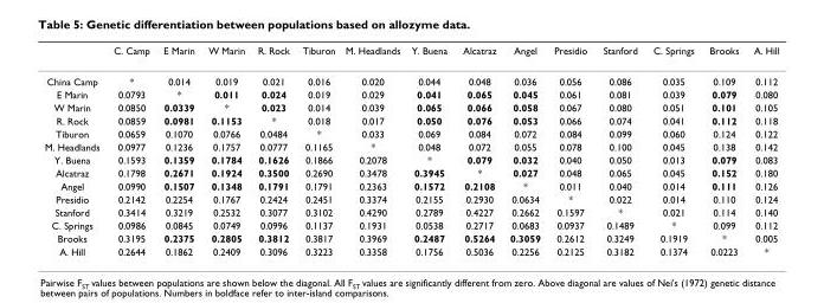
<table><thead><tr><td></td><td>C. Camp</td><td>E Marin</td><td>W Marin</td><td>R. Rock</td><td>Tiburon</td><td>M. Headlands</td><td>Y. Buena</td><td>Alcatraz</td><td>Angel</td><td>Presidio</td><td>Stanford</td><td>C. Springs</td><td>Brooks</td><td>A. Hill</td></tr></thead><tbody><tr><td>China Camp</td><td>*</td><td>0.014</td><td>0.019</td><td>0.021</td><td>0.016</td><td>0.020</td><td>0.044</td><td>0.048</td><td>0.036</td><td>0.056</td><td>0.086</td><td>0.035</td><td>0.109</td><td>0.112</td></tr><tr><td>E Marin</td><td>0.0793</td><td>*</td><td>0.011</td><td>0.024</td><td>0.019</td><td>0.029</td><td>0.041</td><td>0.065</td><td>0.045</td><td>0.061</td><td>0.081</td><td>0.039</td><td>0.079</td><td>0.080</td></tr><tr><td>W Marin</td><td>0.0850</td><td>0.0339</td><td>*</td><td>0.023</td><td>0.014</td><td>0.039</td><td>0.065</td><td>0.066</td><td>0.058</td><td>0.067</td><td>0.080</td><td>0.051</td><td>0.101</td><td>0.105</td></tr><tr><td>R. Rock</td><td>0.0859</td><td>0.0981</td><td>0.1153</td><td>*</td><td>0.018</td><td>0.017</td><td>0.050</td><td>0.076</td><td>0.053</td><td>0.066</td><td>0.074</td><td>0.041</td><td>0.112</td><td>0.118</td></tr><tr><td>Tiburon</td><td>0.0659</td><td>0.1070</td><td>0.0766</td><td>0.0484</td><td>*</td><td>0.033</td><td>0.069</td><td>0.084</td><td>0.072</td><td>0.084</td><td>0.099</td><td>0.060</td><td>0.124</td><td>0.122</td></tr><tr><td>M. Headlands</td><td>0.0977</td><td>0.1236</td><td>0.1757</td><td>0.0777</td><td>0.1165</td><td>*</td><td>0.048</td><td>0.072</td><td>0.055</td><td>0.078</td><td>0.100</td><td>0.045</td><td>0.138</td><td>0.142</td></tr><tr><td>Y. Buena</td><td>0.1593</td><td>0.1359</td><td>0.1784</td><td>0.1626</td><td>0.1866</td><td>0.2078</td><td>*</td><td>0.079</td><td>0.032</td><td>0.040</td><td>0.050</td><td>0.013</td><td>0.079</td><td>0.083</td></tr><tr><td>Alcatraz</td><td>0.1798</td><td>0.2671</td><td>0.1924</td><td>0.3500</td><td>0.2690</td><td>0.3478</td><td>0.3945</td><td>*</td><td>0.027</td><td>0.048</td><td>0.065</td><td>0.045</td><td>0.152</td><td>0.180</td></tr><tr><td>Angel</td><td>0.0990</td><td>0.1507</td><td>0.1348</td><td>0.1791</td><td>0.1791</td><td>0.2363</td><td>0.1572</td><td>0.2108</td><td>*</td><td>0.011</td><td>0.040</td><td>0.014</td><td>0.111</td><td>0.126</td></tr><tr><td>Presidio</td><td>0.2142</td><td>0.2254</td><td>0.1767</td><td>0.2424</td><td>0.2451</td><td>0.3374</td><td>0.2155</td><td>0.2930</td><td>0.0634</td><td>*</td><td>0.022</td><td>0.014</td><td>0.110</td><td>0.124</td></tr><tr><td>Stanford</td><td>0.3414</td><td>0.3219</td><td>0.2532</td><td>0.3077</td><td>0.3102</td><td>0.4290</td><td>0.2789</td><td>0.4227</td><td>0.2662</td><td>0.1597</td><td>*</td><td>0.021</td><td>0.114</td><td>0.140</td></tr><tr><td>C. Springs</td><td>0.0986</td><td>0.0845</td><td>0.0749</td><td>0.0996</td><td>0.1137</td><td>0.1931</td><td>0.0538</td><td>0.2717</td><td>0.0683</td><td>0.0937</td><td>0.1489</td><td>*</td><td>0.099</td><td>0.112</td></tr><tr><td>Brooks</td><td>0.3195</td><td>0.2375</td><td>0.2805</td><td>0.3812</td><td>0.3817</td><td>0.3969</td><td>0.2487</td><td>0.5264</td><td>0.3059</td><td>0.2612</td><td>0.3249</td><td>0.1919</td><td>*</td><td>0.005</td></tr><tr><td>A. Hill</td><td>0.2644</td><td>0.1862</td><td>0.2409</td><td>0.3096</td><td>0.3223</td><td>0.3358</td><td>0.1756</td><td>0.5036</td><td>0.2256</td><td>0.2125</td><td>0.3182</td><td>0.1374</td><td>0.0223</td><td>*</td></tr></tbody></table>